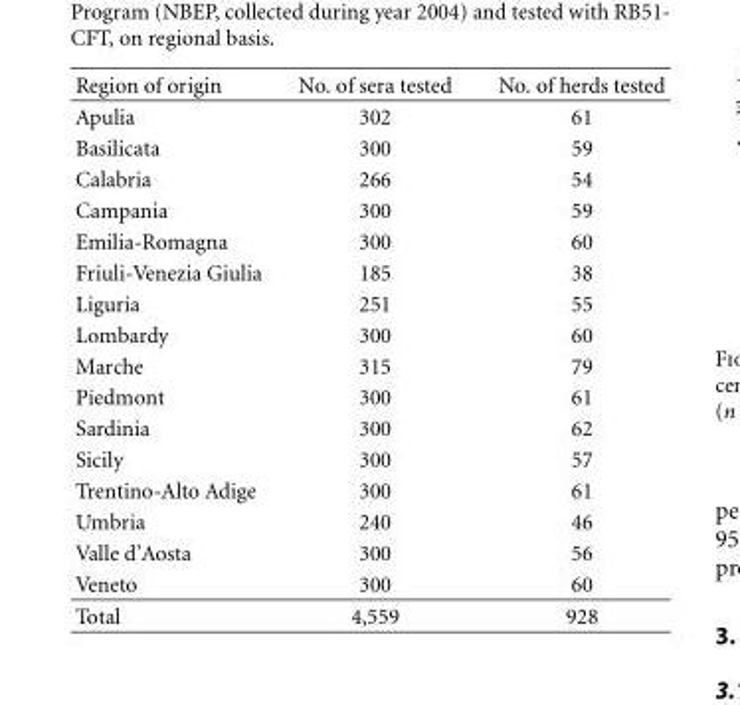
<table><thead><tr><td>Region of origin</td><td>No. of sera tested</td><td>No. of herds tested</td></tr></thead><tbody><tr><td>Apulia</td><td>302</td><td>61</td></tr><tr><td>Basilicata</td><td>300</td><td>59</td></tr><tr><td>Calabria</td><td>266</td><td>54</td></tr><tr><td>Campania</td><td>300</td><td>59</td></tr><tr><td>Emilia-Romagna</td><td>300</td><td>60</td></tr><tr><td>Friuli-Venezia Giulia</td><td>185</td><td>38</td></tr><tr><td>Liguria</td><td>251</td><td>55</td></tr><tr><td>Lombardy</td><td>300</td><td>60</td></tr><tr><td>Marche</td><td>315</td><td>79</td></tr><tr><td>Piedmont</td><td>300</td><td>61</td></tr><tr><td>Sardinia</td><td>300</td><td>62</td></tr><tr><td>Sicily</td><td>300</td><td>57</td></tr><tr><td>Trentino-Alto Adige</td><td>300</td><td>61</td></tr><tr><td>Umbria</td><td>240</td><td>46</td></tr><tr><td>Valle d’Aosta</td><td>300</td><td>56</td></tr><tr><td>Veneto</td><td>300</td><td>60</td></tr><tr><td>Total</td><td>4,559</td><td>928</td></tr></tbody></table>